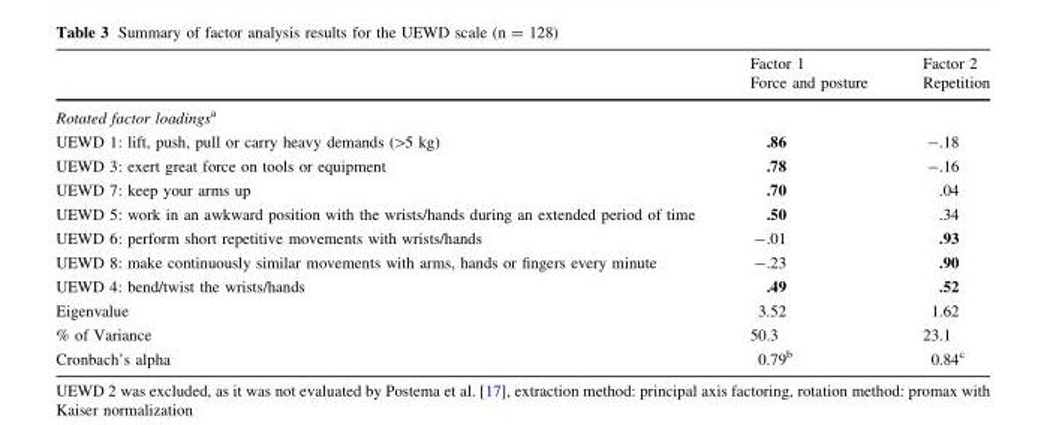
<table><thead><tr><td></td><td>Factor 1 Force and posture</td><td>Factor 2 Repetition</td></tr></thead><tbody><tr><td colspan="3">Rotated factor loadings<sup>a</sup></td></tr><tr><td>UEWD 1: lift, push, pull or carry heavy demands (&gt;5 kg)</td><td>.86</td><td>-.18</td></tr><tr><td>UEWD 3: exert great force on tools or equipment</td><td>.78</td><td>-.16</td></tr><tr><td>UEWD 7: keep your arms up</td><td>.70</td><td>.04</td></tr><tr><td>UEWD 5: work in an awkward position with the wrists/hands during an extended period of time</td><td>.50</td><td>.34</td></tr><tr><td>UEWD 6: perform short repetitive movements with wrists/hands</td><td>-.01</td><td>.93</td></tr><tr><td>UEWD 8: make continuously similar movements with arms, hands or fingers every minute</td><td>-.23</td><td>.90</td></tr><tr><td>UEWD 4: bend/twist the wrists/hands</td><td>.49</td><td>.52</td></tr><tr><td>Eigenvalue</td><td>3.52</td><td>1.62</td></tr><tr><td>% of Variance</td><td>50.3</td><td>23.1</td></tr><tr><td>Cronbach’s alpha</td><td>0.79<sup>b</sup></td><td>0.84<sup>c</sup></td></tr></tbody></table>